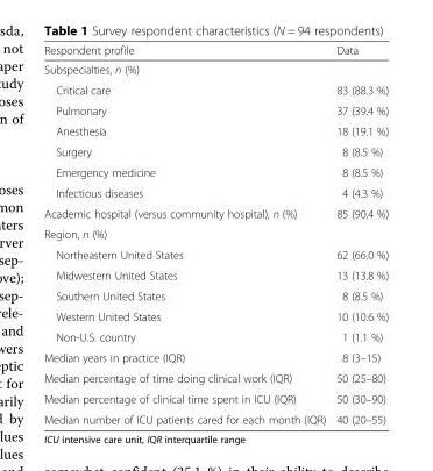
<table><thead><tr><td>Respondent profile</td><td>Data</td></tr></thead><tbody><tr><td colspan="2">Subspecialties, n (%)</td></tr><tr><td>Critical care</td><td>83 (88.3 %)</td></tr><tr><td>Pulmonary</td><td>37 (39.4 %)</td></tr><tr><td>Anesthesia</td><td>18 (19.1 %)</td></tr><tr><td>Surgery</td><td>8 (8.5 %)</td></tr><tr><td>Emergency medicine</td><td>8 (8.5 %)</td></tr><tr><td>Infectious diseases</td><td>4 (4.3 %)</td></tr><tr><td>Academic hospital (versus community hospital), n (%)</td><td>85 (90.4 %)</td></tr><tr><td colspan="2">Region, n (%)</td></tr><tr><td>Northeastern United States</td><td>62 (66.0 %)</td></tr><tr><td>Midwestern United States</td><td>13 (13.8 %)</td></tr><tr><td>Southern United States</td><td>8 (8.5 %)</td></tr><tr><td>Western United States</td><td>10 (10.6 %)</td></tr><tr><td>Non-U.S. country</td><td>1 (1.1 %)</td></tr><tr><td>Median years in practice (IQR)</td><td>8 (3–15)</td></tr><tr><td>Median percentage of time doing clinical work (IQR)</td><td>50 (25–80)</td></tr><tr><td>Median percentage of clinical time spent in ICU (IQR)</td><td>50 (30–90)</td></tr><tr><td>Median number of ICU patients cared for each month (IQR)</td><td>40 (20–55)</td></tr></tbody></table>